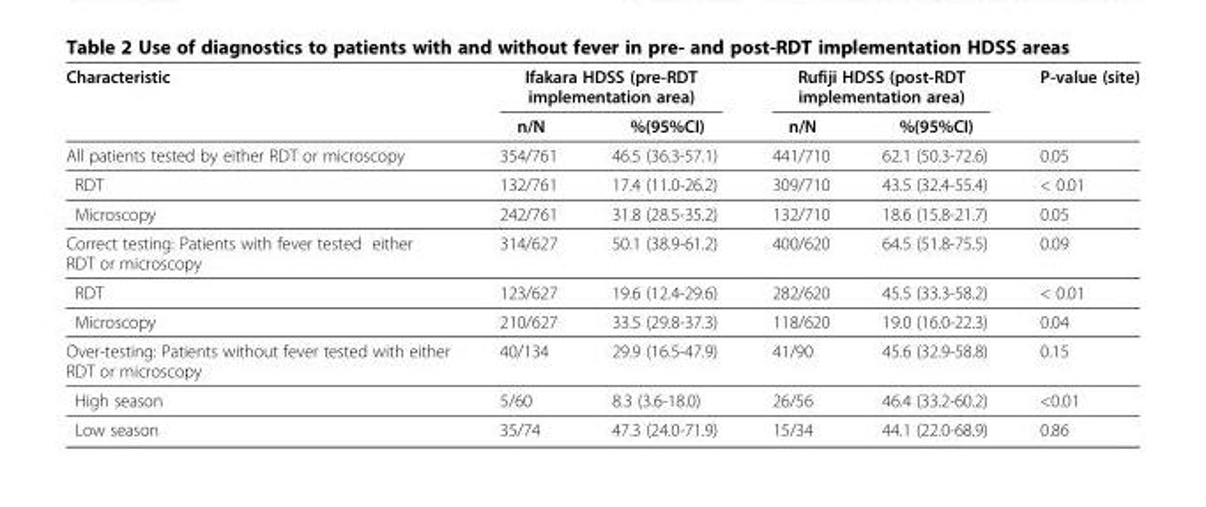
<table><thead><tr><td rowspan="2">Characteristic</td><td colspan="2">Ifakara HDSS (pre-RDT implementation area)</td><td colspan="2">Rufiji HDSS (post-RDT implementation area)</td><td rowspan="2">P-value (site)</td></tr><tr><td>n/N</td><td>%(95%CI)</td><td>n/N</td><td>%(95%CI)</td></tr></thead><tbody><tr><td>All patients tested by either RDT or microscopy</td><td>354/761</td><td>46.5 (36.3-57.1)</td><td>441/710</td><td>62.1 (50.3-72.6)</td><td>0.05</td></tr><tr><td>RDT</td><td>132/761</td><td>17.4 (11.0-26.2)</td><td>309/710</td><td>43.5 (32.4-55.4)</td><td>&lt; 0.01</td></tr><tr><td>Microscopy</td><td>242/761</td><td>31.8 (28.5-35.2)</td><td>132/710</td><td>18.6 (15.8-21.7)</td><td>0.05</td></tr><tr><td>Correct testing: Patients with fever tested either RDT or microscopy</td><td>314/627</td><td>50.1 (38.9-61.2)</td><td>400/620</td><td>64.5 (51.8-75.5)</td><td>0.09</td></tr><tr><td>RDT</td><td>123/627</td><td>19.6 (12.4-29.6)</td><td>282/620</td><td>45.5 (33.3-58.2)</td><td>&lt; 0.01</td></tr><tr><td>Microscopy</td><td>210/627</td><td>33.5 (29.8-37.3)</td><td>118/620</td><td>19.0 (16.0-22.3)</td><td>0.04</td></tr><tr><td>Over-testing: Patients without fever tested with either RDT or microscopy</td><td>40/134</td><td>29.9 (16.5-47.9)</td><td>41/90</td><td>45.6 (32.9-58.8)</td><td>0.15</td></tr><tr><td>High season</td><td>5/60</td><td>8.3 (3.6-18.0)</td><td>26/56</td><td>46.4 (33.2-60.2)</td><td>&lt;0.01</td></tr><tr><td>Low season</td><td>35/74</td><td>47.3 (24.0-71.9)</td><td>15/34</td><td>44.1 (22.0-68.9)</td><td>0.86</td></tr></tbody></table>